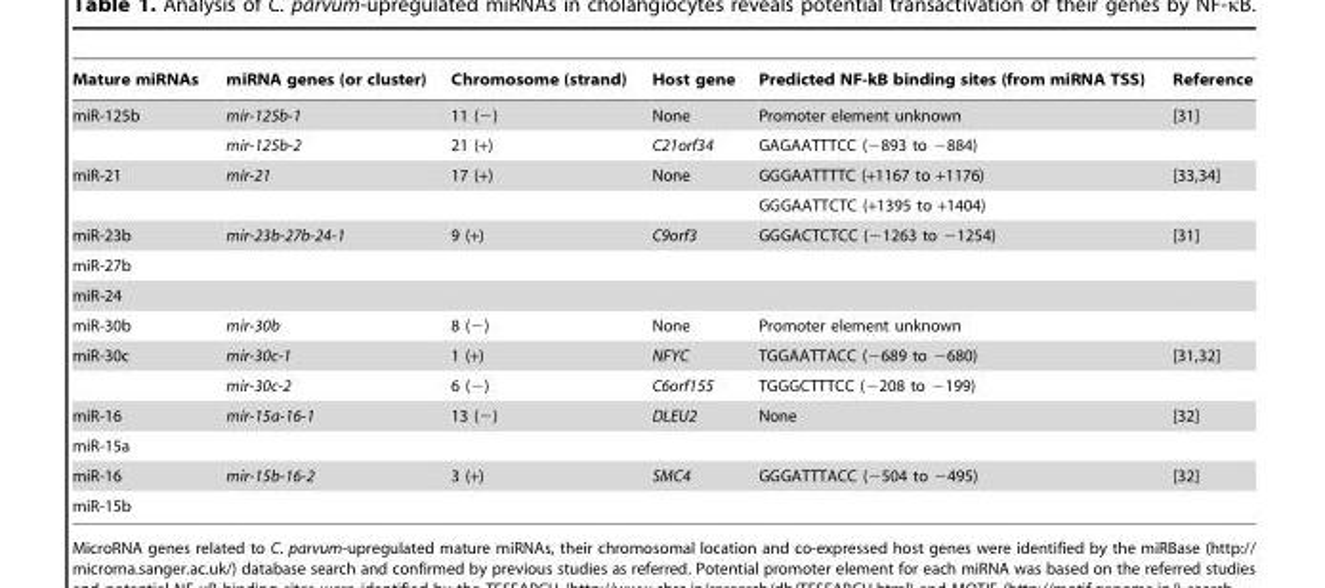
<table><thead><tr><td>Mature miRNAs</td><td>miRNA genes (or cluster)</td><td>Chromosome (strand)</td><td>Host gene</td><td>Predicted NF-kB binding sites (from miRNA TSS)</td><td>Reference</td></tr></thead><tbody><tr><td rowspan="2">miR-125b</td><td>mir-125b-1</td><td>11 (−)</td><td>None</td><td>Promoter element unknown</td><td>[31]</td></tr><tr><td>mir-125b-2</td><td>21 (+)</td><td>C21orf34</td><td>GAGAATTTCC (−893 to −884)</td><td></td></tr><tr><td rowspan="2">miR-21</td><td>mir-21</td><td>17 (+)</td><td>None</td><td>GGGAATTTTC (+1167 to +1176)</td><td>[33,34]</td></tr><tr><td></td><td></td><td></td><td>GGGAATTCTC (+1395 to +1404)</td><td></td></tr><tr><td>miR-23b</td><td>mir-23b-27b-24-1</td><td>9 (+)</td><td>C9orf3</td><td>GGGACTCTCC (−1263 to −1254)</td><td>[31]</td></tr><tr><td colspan="6">miR-27b</td></tr><tr><td colspan="6">miR-24</td></tr><tr><td>miR-30b</td><td>mir-30b</td><td>8 (−)</td><td>None</td><td>Promoter element unknown</td><td></td></tr><tr><td rowspan="2">miR-30c</td><td>mir-30c-1</td><td>1 (+)</td><td>NFYC</td><td>TGGAATTACC (−689 to −680)</td><td>[31,32]</td></tr><tr><td>mir-30c-2</td><td>6 (−)</td><td>C6orf155</td><td>TGGGCTTTCC (−208 to −199)</td><td></td></tr><tr><td>miR-16</td><td>mir-15a-16-1</td><td>13 (−)</td><td>DLEU2</td><td>None</td><td>[32]</td></tr><tr><td colspan="6">miR-15a</td></tr><tr><td>miR-16</td><td>mir-15b-16-2</td><td>3 (+)</td><td>SMC4</td><td>GGGATTTACC (−504 to −495)</td><td>[32]</td></tr><tr><td colspan="6">miR-15b</td></tr></tbody></table>